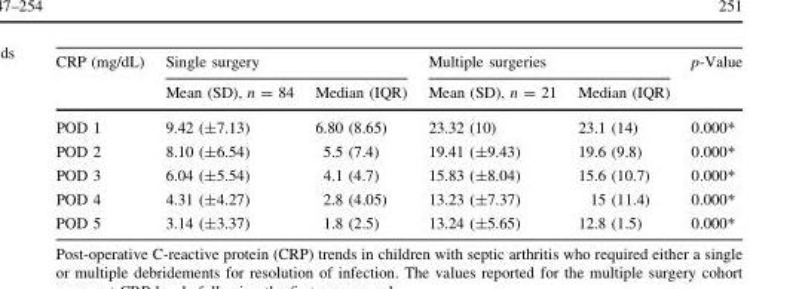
<table><thead><tr><td rowspan="2">CRP (mg/dL)</td><td colspan="2">Single surgery</td><td colspan="2">Multiple surgeries</td><td rowspan="2">p-Value</td></tr><tr><td>Mean (SD), n = 84</td><td>Median (IQR)</td><td>Mean (SD), n = 21</td><td>Median (IQR)</td></tr></thead><tbody><tr><td>POD 1</td><td>9.42 (±7.13)</td><td>6.80 (8.65)</td><td>23.32 (10)</td><td>23.1 (14)</td><td>0.000*</td></tr><tr><td>POD 2</td><td>8.10 (±6.54)</td><td>5.5 (7.4)</td><td>19.41 (±9.43)</td><td>19.6 (9.8)</td><td>0.000*</td></tr><tr><td>POD 3</td><td>6.04 (±5.54)</td><td>4.1 (4.7)</td><td>15.83 (±8.04)</td><td>15.6 (10.7)</td><td>0.000*</td></tr><tr><td>POD 4</td><td>4.31 (±4.27)</td><td>2.8 (4.05)</td><td>13.23 (±7.37)</td><td>15 (11.4)</td><td>0.000*</td></tr><tr><td>POD 5</td><td>3.14 (±3.37)</td><td>1.8 (2.5)</td><td>13.24 (±5.65)</td><td>12.8 (1.5)</td><td>0.000*</td></tr></tbody></table>